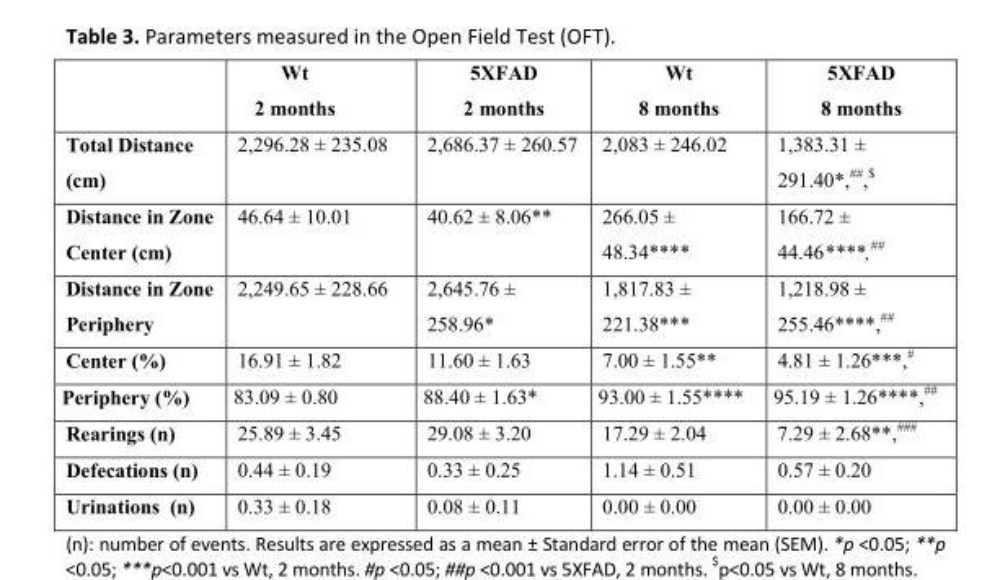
<table><thead><tr><td></td><td>Wt 2 months</td><td>5XFAD 2 months</td><td>Wt 8 months</td><td>5XFAD 8 months</td></tr></thead><tbody><tr><td>Total Distance (cm)</td><td>2,296.28 ± 235.08</td><td>2,686.37 ± 260.57</td><td>2,083 ± 246.02</td><td>1,383.31 ± 291.40*,<sup>##</sup>,<sup>$</sup></td></tr><tr><td>Distance in Zone Center (cm)</td><td>46.64 ± 10.01</td><td>40.62 ± 8.06**</td><td>266.05 ± 48.34****</td><td>166.72 ± 44.46****,<sup>##</sup></td></tr><tr><td>Distance in Zone Periphery</td><td>2,249.65 ± 228.66</td><td>2,645.76 ± 258.96*</td><td>1,817.83 ± 221.38***</td><td>1,218.98 ± 255.46****,<sup>##</sup></td></tr><tr><td>Center (%)</td><td>16.91 ± 1.82</td><td>11.60 ± 1.63</td><td>7.00 ± 1.55**</td><td>4.81 ± 1.26***,<sup>#</sup></td></tr><tr><td>Periphery (%)</td><td>83.09 ± 0.80</td><td>88.40 ± 1.63*</td><td>93.00 ± 1.55****</td><td>95.19 ± 1.26****,<sup>##</sup></td></tr><tr><td>Rearings (n)</td><td>25.89 ± 3.45</td><td>29.08 ± 3.20</td><td>17.29 ± 2.04</td><td>7.29 ± 2.68**,<sup>###</sup></td></tr><tr><td>Defecations (n)</td><td>0.44 ± 0.19</td><td>0.33 ± 0.25</td><td>1.14 ± 0.51</td><td>0.57 ± 0.20</td></tr><tr><td>Urinations (n)</td><td>0.33 ± 0.18</td><td>0.08 ± 0.11</td><td>0.00 ± 0.00</td><td>0.00 ± 0.00</td></tr></tbody></table>